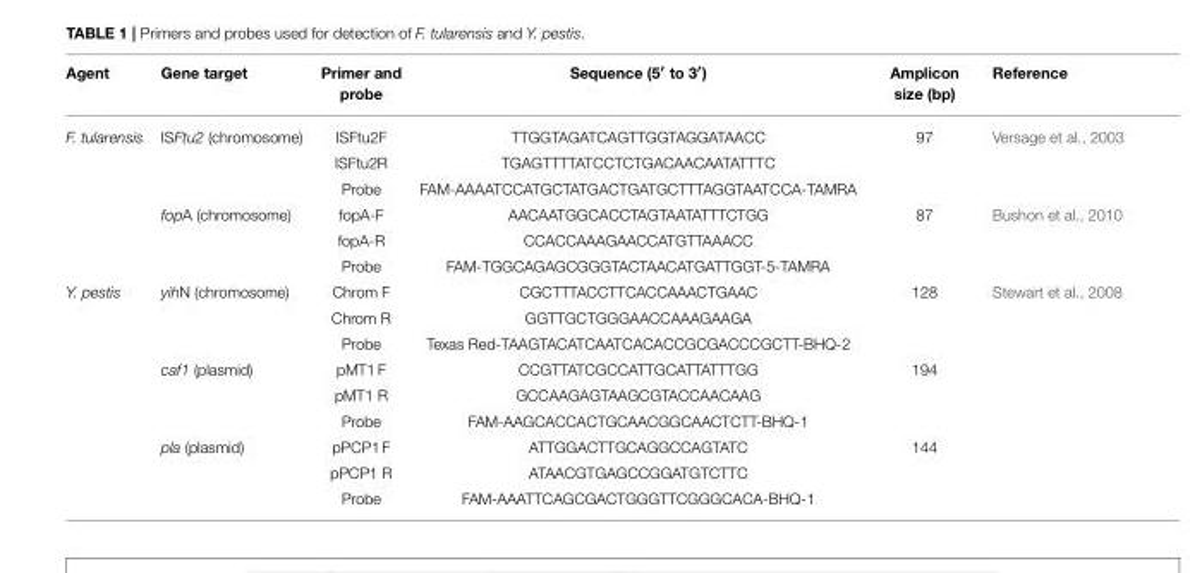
<table><thead><tr><td>Agent</td><td>Gene target</td><td>Primer and probe</td><td>Sequence (5′ to 3′)</td><td>Amplicon size (bp)</td><td>Reference</td></tr></thead><tbody><tr><td rowspan="6">F. tularensis</td><td>ISFtu2 (chromosome)</td><td>ISFtu2F</td><td>TTGGTAGATCAGTTGGTAGGATAACC</td><td>97</td><td>Versage et al., 2003</td></tr><tr><td></td><td>ISFtu2R</td><td>TGAGTTTTATCCTCTGACAACAATATTTC</td><td></td><td></td></tr><tr><td></td><td>Probe</td><td>FAM-AAAATCCATGCTATGACTGATGCTTTAGGTAATCCA-TAMRA</td><td></td><td></td></tr><tr><td>fopA (chromosome)</td><td>fopA-F</td><td>AACAATGGCACCTAGTAATATTTCTGG</td><td>87</td><td>Bushon et al., 2010</td></tr><tr><td></td><td>fopA-R</td><td>CCACCAAAGAACCATGTTAAACC</td><td></td><td></td></tr><tr><td></td><td>Probe</td><td>FAM-TGGCAGAGCGGGTACTAACATGATTGGT-5-TAMRA</td><td></td><td></td></tr><tr><td rowspan="9">Y. pestis</td><td>yihN (chromosome)</td><td>Chrom F</td><td>CGCTTTACCTTCACCAAACTGAAC</td><td>128</td><td>Stewart et al., 2008</td></tr><tr><td></td><td>Chrom R</td><td>GGTTGCTGGGAACCAAAGAAGA</td><td></td><td></td></tr><tr><td></td><td>Probe</td><td>Texas Red-TAAGTACATCAATCACACCGCGACCCGCTT-BHQ-2</td><td></td><td></td></tr><tr><td>caf1 (plasmid)</td><td>pMT1 F</td><td>CCGTTATCGCCATTGCATTATTTGG</td><td>194</td><td></td></tr><tr><td></td><td>pMT1 R</td><td>GCCAAGAGTAAGCGTACCAACAAG</td><td></td><td></td></tr><tr><td></td><td>Probe</td><td>FAM-AAGCACCACTGCAACGGCAACTCTT-BHQ-1</td><td></td><td></td></tr><tr><td>pla (plasmid)</td><td>pPCP1 F</td><td>ATTGGACTTGCAGGCCAGTATC</td><td>144</td><td></td></tr><tr><td></td><td>pPCP1 R</td><td>ATAACGTGAGCCGGATGTCTTC</td><td></td><td></td></tr><tr><td></td><td>Probe</td><td>FAM-AAATTCAGCGACTGGGTTCGGGCACA-BHQ-1</td><td></td><td></td></tr></tbody></table>